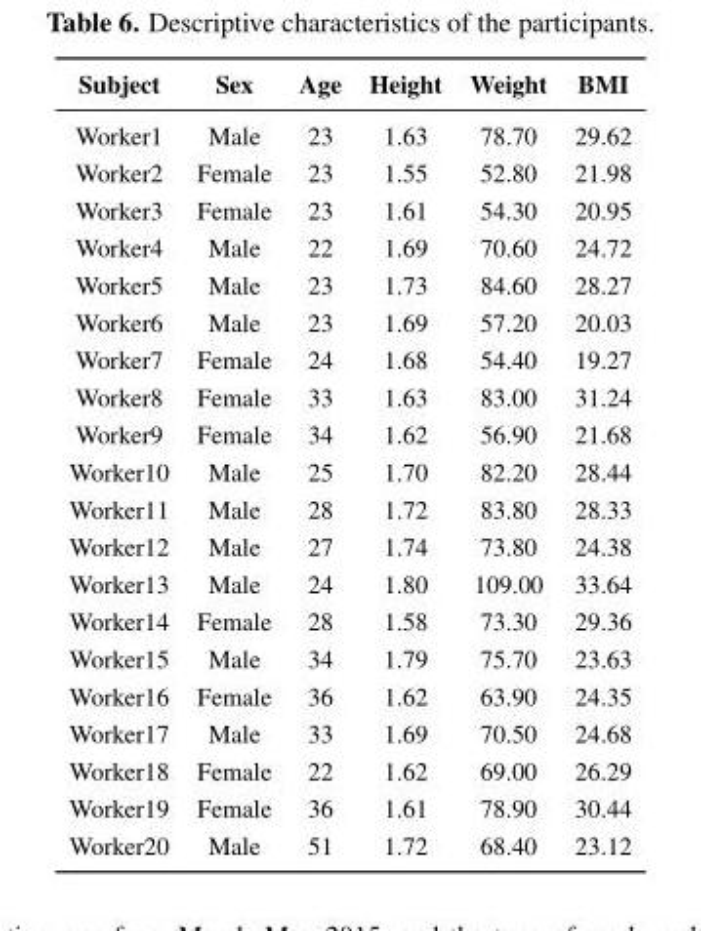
<table><thead><tr><td>Subject</td><td>Sex</td><td>Age</td><td>Height</td><td>Weight</td><td>BMI</td></tr></thead><tbody><tr><td>Worker1</td><td>Male</td><td>23</td><td>1.63</td><td>78.70</td><td>29.62</td></tr><tr><td>Worker2</td><td>Female</td><td>23</td><td>1.55</td><td>52.80</td><td>21.98</td></tr><tr><td>Worker3</td><td>Female</td><td>23</td><td>1.61</td><td>54.30</td><td>20.95</td></tr><tr><td>Worker4</td><td>Male</td><td>22</td><td>1.69</td><td>70.60</td><td>24.72</td></tr><tr><td>Worker5</td><td>Male</td><td>23</td><td>1.73</td><td>84.60</td><td>28.27</td></tr><tr><td>Worker6</td><td>Male</td><td>23</td><td>1.69</td><td>57.20</td><td>20.03</td></tr><tr><td>Worker7</td><td>Female</td><td>24</td><td>1.68</td><td>54.40</td><td>19.27</td></tr><tr><td>Worker8</td><td>Female</td><td>33</td><td>1.63</td><td>83.00</td><td>31.24</td></tr><tr><td>Worker9</td><td>Female</td><td>34</td><td>1.62</td><td>56.90</td><td>21.68</td></tr><tr><td>Worker10</td><td>Male</td><td>25</td><td>1.70</td><td>82.20</td><td>28.44</td></tr><tr><td>Worker11</td><td>Male</td><td>28</td><td>1.72</td><td>83.80</td><td>28.33</td></tr><tr><td>Worker12</td><td>Male</td><td>27</td><td>1.74</td><td>73.80</td><td>24.38</td></tr><tr><td>Worker13</td><td>Male</td><td>24</td><td>1.80</td><td>109.00</td><td>33.64</td></tr><tr><td>Worker14</td><td>Female</td><td>28</td><td>1.58</td><td>73.30</td><td>29.36</td></tr><tr><td>Worker15</td><td>Male</td><td>34</td><td>1.79</td><td>75.70</td><td>23.63</td></tr><tr><td>Worker16</td><td>Female</td><td>36</td><td>1.62</td><td>63.90</td><td>24.35</td></tr><tr><td>Worker17</td><td>Male</td><td>33</td><td>1.69</td><td>70.50</td><td>24.68</td></tr><tr><td>Worker18</td><td>Female</td><td>22</td><td>1.62</td><td>69.00</td><td>26.29</td></tr><tr><td>Worker19</td><td>Female</td><td>36</td><td>1.61</td><td>78.90</td><td>30.44</td></tr><tr><td>Worker20</td><td>Male</td><td>51</td><td>1.72</td><td>68.40</td><td>23.12</td></tr></tbody></table>